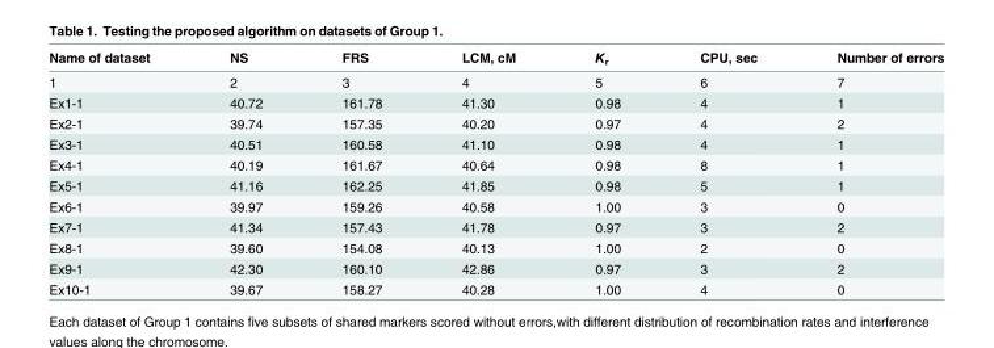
<table><thead><tr><td>Name of dataset</td><td>NS</td><td>FRS</td><td>LCM, cM</td><td>K<sub>r</sub></td><td>CPU, sec</td><td>Number of errors</td></tr></thead><tbody><tr><td>1</td><td>2</td><td>3</td><td>4</td><td>5</td><td>6</td><td>7</td></tr><tr><td>Ex1-1</td><td>40.72</td><td>161.78</td><td>41.30</td><td>0.98</td><td>4</td><td>1</td></tr><tr><td>Ex2-1</td><td>39.74</td><td>157.35</td><td>40.20</td><td>0.97</td><td>4</td><td>2</td></tr><tr><td>Ex3-1</td><td>40.51</td><td>160.58</td><td>41.10</td><td>0.98</td><td>4</td><td>1</td></tr><tr><td>Ex4-1</td><td>40.19</td><td>161.67</td><td>40.64</td><td>0.98</td><td>8</td><td>1</td></tr><tr><td>Ex5-1</td><td>41.16</td><td>162.25</td><td>41.85</td><td>0.98</td><td>5</td><td>1</td></tr><tr><td>Ex6-1</td><td>39.97</td><td>159.26</td><td>40.58</td><td>1.00</td><td>3</td><td>0</td></tr><tr><td>Ex7-1</td><td>41.34</td><td>157.43</td><td>41.78</td><td>0.97</td><td>3</td><td>2</td></tr><tr><td>Ex8-1</td><td>39.60</td><td>154.08</td><td>40.13</td><td>1.00</td><td>2</td><td>0</td></tr><tr><td>Ex9-1</td><td>42.30</td><td>160.10</td><td>42.86</td><td>0.97</td><td>3</td><td>2</td></tr><tr><td>Ex10-1</td><td>39.67</td><td>158.27</td><td>40.28</td><td>1.00</td><td>4</td><td>0</td></tr></tbody></table>